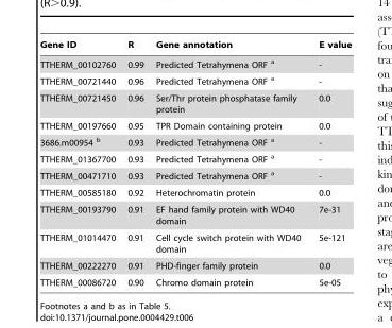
<table><thead><tr><td>Gene ID</td><td>R</td><td>Gene annotation</td><td>E value</td></tr></thead><tbody><tr><td>TTHERM_00102760</td><td>0.99</td><td>Predicted Tetrahymena ORF <sup>a</sup></td><td>-</td></tr><tr><td>TTHERM_00721440</td><td>0.96</td><td>Predicted Tetrahymena ORF <sup>a</sup></td><td>-</td></tr><tr><td>TTHERM_00721450</td><td>0.96</td><td>Ser/Thr protein phosphatase family protein</td><td>0.0</td></tr><tr><td>TTHERM_00197660</td><td>0.95</td><td>TPR Domain containing protein</td><td>0.0</td></tr><tr><td>3686.m00954 <sup>b</sup></td><td>0.93</td><td>Predicted Tetrahymena ORF <sup>a</sup></td><td>-</td></tr><tr><td>TTHERM_01367700</td><td>0.93</td><td>Predicted Tetrahymena ORF <sup>a</sup></td><td>-</td></tr><tr><td>TTHERM_00471710</td><td>0.93</td><td>Predicted Tetrahymena ORF <sup>a</sup></td><td>-</td></tr><tr><td>TTHERM_00585180</td><td>0.92</td><td>Heterochromatin protein</td><td>0.0</td></tr><tr><td>TTHERM_00193790</td><td>0.91</td><td>EF hand family protein with WD40 domain</td><td>7e-31</td></tr><tr><td>TTHERM_01014470</td><td>0.91</td><td>Cell cycle switch protein with WD40 domain</td><td>5e-121</td></tr><tr><td>TTHERM_00222270</td><td>0.91</td><td>PHD-finger family protein</td><td>0.0</td></tr><tr><td>TTHERM_00086720</td><td>0.90</td><td>Chromo domain protein</td><td>5e-05</td></tr></tbody></table>